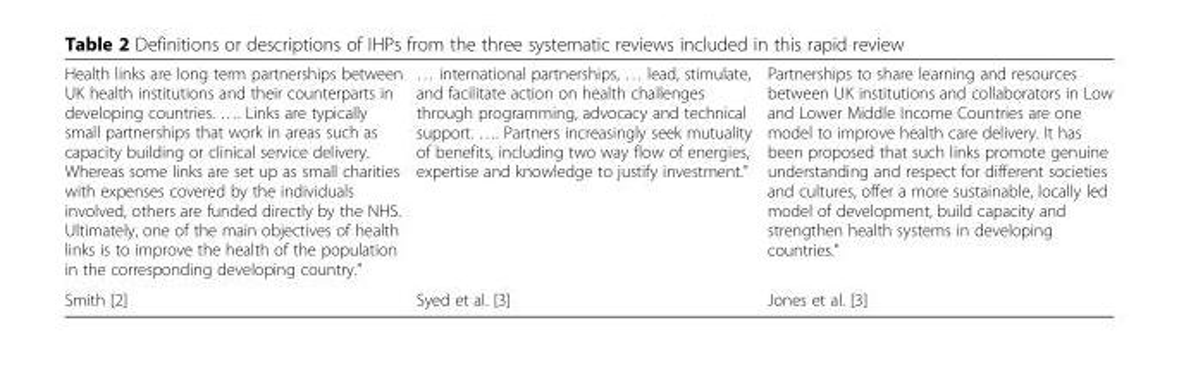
<table><tbody><tr><td>Health links are long term partnerships between UK health institutions and their counterparts in developing countries. …. Links are typically small partnerships that work in areas such as capacity building or clinical service delivery. Whereas some links are set up as small charities with expenses covered by the individuals involved, others are funded directly by the NHS. Ultimately, one of the main objectives of health links is to improve the health of the population in the corresponding developing country.”</td><td>… international partnerships, … lead, stimulate, and facilitate action on health challenges through programming, advocacy and technical support. …. Partners increasingly seek mutuality of benefits, including two way flow of energies, expertise and knowledge to justify investment.”</td><td>Partnerships to share learning and resources between UK institutions and collaborators in Low and Lower Middle Income Countries are one model to improve health care delivery. It has been proposed that such links promote genuine understanding and respect for different societies and cultures, offer a more sustainable, locally led model of development, build capacity and strengthen health systems in developing countries.”</td></tr><tr><td>Smith [2]</td><td>Syed et al. [3]</td><td>Jones et al. [3]</td></tr></tbody></table>